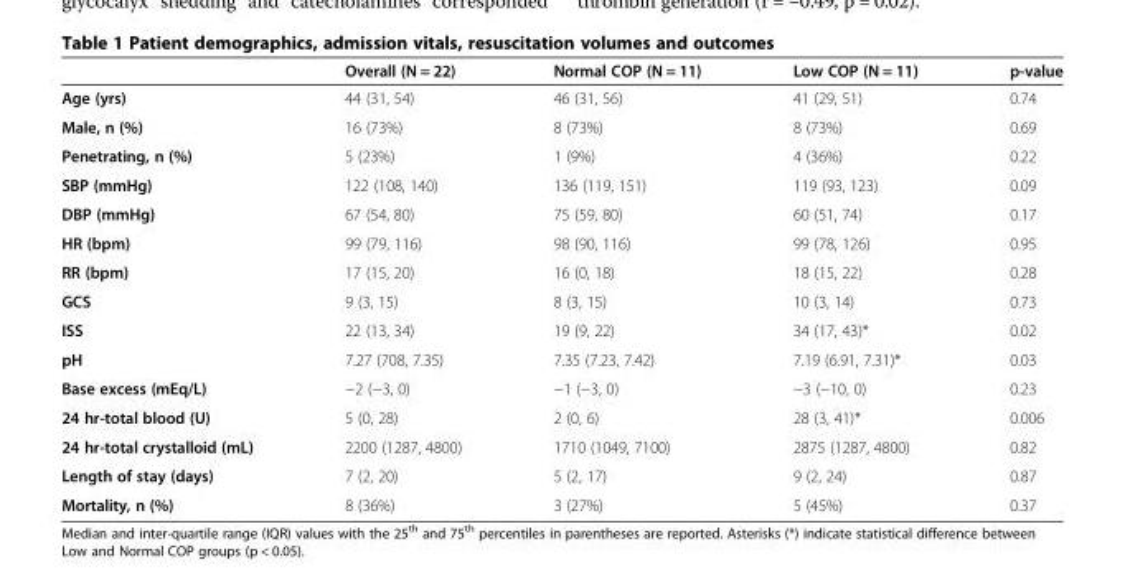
<table><thead><tr><td></td><td>Overall (N = 22)</td><td>Normal COP (N = 11)</td><td>Low COP (N = 11)</td><td>p-value</td></tr></thead><tbody><tr><td>Age (yrs)</td><td>44 (31, 54)</td><td>46 (31, 56)</td><td>41 (29, 51)</td><td>0.74</td></tr><tr><td>Male, n (%)</td><td>16 (73%)</td><td>8 (73%)</td><td>8 (73%)</td><td>0.69</td></tr><tr><td>Penetrating, n (%)</td><td>5 (23%)</td><td>1 (9%)</td><td>4 (36%)</td><td>0.22</td></tr><tr><td>SBP (mmHg)</td><td>122 (108, 140)</td><td>136 (119, 151)</td><td>119 (93, 123)</td><td>0.09</td></tr><tr><td>DBP (mmHg)</td><td>67 (54, 80)</td><td>75 (59, 80)</td><td>60 (51, 74)</td><td>0.17</td></tr><tr><td>HR (bpm)</td><td>99 (79, 116)</td><td>98 (90, 116)</td><td>99 (78, 126)</td><td>0.95</td></tr><tr><td>RR (bpm)</td><td>17 (15, 20)</td><td>16 (0, 18)</td><td>18 (15, 22)</td><td>0.28</td></tr><tr><td>GCS</td><td>9 (3, 15)</td><td>8 (3, 15)</td><td>10 (3, 14)</td><td>0.73</td></tr><tr><td>ISS</td><td>22 (13, 34)</td><td>19 (9, 22)</td><td>34 (17, 43)*</td><td>0.02</td></tr><tr><td>pH</td><td>7.27 (708, 7.35)</td><td>7.35 (7.23, 7.42)</td><td>7.19 (6.91, 7.31)*</td><td>0.03</td></tr><tr><td>Base excess (mEq/L)</td><td>−2 (−3, 0)</td><td>−1 (−3, 0)</td><td>−3 (−10, 0)</td><td>0.23</td></tr><tr><td>24 hr-total blood (U)</td><td>5 (0, 28)</td><td>2 (0, 6)</td><td>28 (3, 41)*</td><td>0.006</td></tr><tr><td>24 hr-total crystalloid (mL)</td><td>2200 (1287, 4800)</td><td>1710 (1049, 7100)</td><td>2875 (1287, 4800)</td><td>0.82</td></tr><tr><td>Length of stay (days)</td><td>7 (2, 20)</td><td>5 (2, 17)</td><td>9 (2, 24)</td><td>0.87</td></tr><tr><td>Mortality, n (%)</td><td>8 (36%)</td><td>3 (27%)</td><td>5 (45%)</td><td>0.37</td></tr></tbody></table>